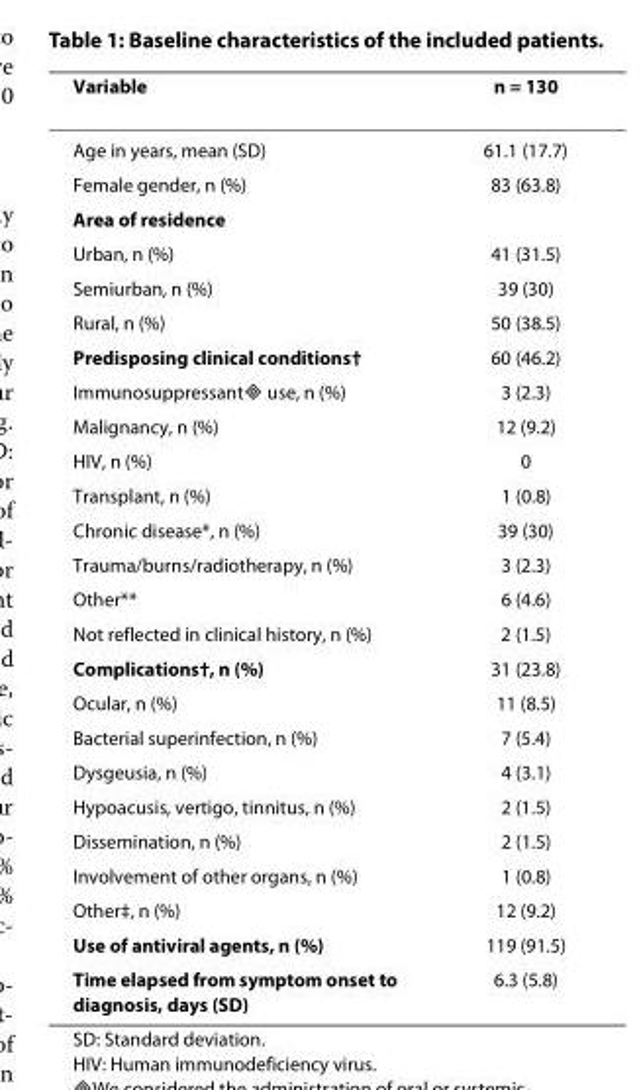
<table><thead><tr><td>Variable</td><td>n = 130</td></tr></thead><tbody><tr><td>Age in years, mean (SD)</td><td>61.1 (17.7)</td></tr><tr><td>Female gender, n (%)</td><td>83 (63.8)</td></tr><tr><td colspan="2">Area of residence</td></tr><tr><td>Urban, n (%)</td><td>41 (31.5)</td></tr><tr><td>Semiurban, n (%)</td><td>39 (30)</td></tr><tr><td>Rural, n (%)</td><td>50 (38.5)</td></tr><tr><td>Predisposing clinical conditions†</td><td>60 (46.2)</td></tr><tr><td>Immunosuppressant◇ use, n (%)</td><td>3 (2.3)</td></tr><tr><td>Malignancy, n (%)</td><td>12 (9.2)</td></tr><tr><td>HIV, n (%)</td><td>0</td></tr><tr><td>Transplant, n (%)</td><td>1 (0.8)</td></tr><tr><td>Chronic disease*, n (%)</td><td>39 (30)</td></tr><tr><td>Trauma/burns/radiotherapy, n (%)</td><td>3 (2.3)</td></tr><tr><td>Other**</td><td>6 (4.6)</td></tr><tr><td>Not reflected in clinical history, n (%)</td><td>2 (1.5)</td></tr><tr><td>Complications†, n (%)</td><td>31 (23.8)</td></tr><tr><td>Ocular, n (%)</td><td>11 (8.5)</td></tr><tr><td>Bacterial superinfection, n (%)</td><td>7 (5.4)</td></tr><tr><td>Dysgeusia, n (%)</td><td>4 (3.1)</td></tr><tr><td>Hypoacusis, vertigo, tinnitus, n (%)</td><td>2 (1.5)</td></tr><tr><td>Dissemination, n (%)</td><td>2 (1.5)</td></tr><tr><td>Involvement of other organs, n (%)</td><td>1 (0.8)</td></tr><tr><td>Other‡, n (%)</td><td>12 (9.2)</td></tr><tr><td>Use of antiviral agents, n (%)</td><td>119 (91.5)</td></tr><tr><td>Time elapsed from symptom onset to diagnosis, days (SD)</td><td>6.3 (5.8)</td></tr></tbody></table>